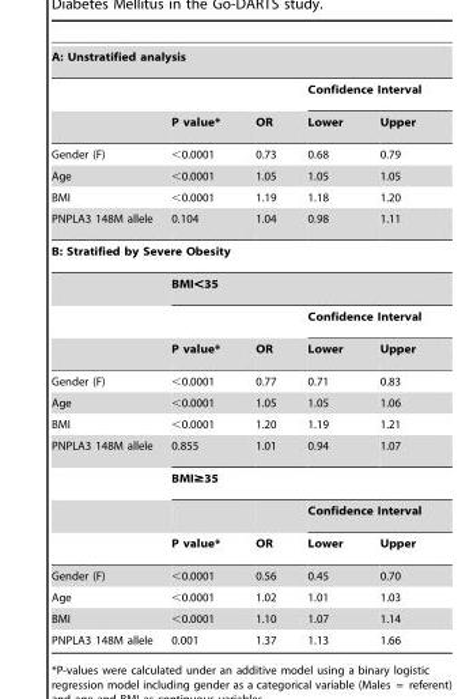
<table><tbody><tr><td colspan="5">A: Unstratified analysis</td></tr><tr><td></td><td colspan="2"></td><td colspan="2">Confidence Interval</td></tr><tr><td></td><td>P value*</td><td>OR</td><td>Lower</td><td>Upper</td></tr><tr><td>Gender (F)</td><td>&lt;0.0001</td><td>0.73</td><td>0.68</td><td>0.79</td></tr><tr><td>Age</td><td>&lt;0.0001</td><td>1.05</td><td>1.05</td><td>1.05</td></tr><tr><td>BMI</td><td>&lt;0.0001</td><td>1.19</td><td>1.18</td><td>1.20</td></tr><tr><td>PNPLA3 148M allele</td><td>0.104</td><td>1.04</td><td>0.98</td><td>1.11</td></tr><tr><td colspan="5">B: Stratified by Severe Obesity</td></tr><tr><td></td><td colspan="4">BMI&lt;35</td></tr><tr><td></td><td></td><td></td><td colspan="2">Confidence Interval</td></tr><tr><td></td><td>P value*</td><td>OR</td><td>Lower</td><td>Upper</td></tr><tr><td>Gender (F)</td><td>&lt;0.0001</td><td>0.77</td><td>0.71</td><td>0.83</td></tr><tr><td>Age</td><td>&lt;0.0001</td><td>1.05</td><td>1.05</td><td>1.06</td></tr><tr><td>BMI</td><td>&lt;0.0001</td><td>1.20</td><td>1.19</td><td>1.21</td></tr><tr><td rowspan="4">PNPLA3 148M allele</td><td>0.855</td><td>1.01</td><td>0.94</td><td>1.07</td></tr><tr><td colspan="4">BMI≥35</td></tr><tr><td></td><td></td><td colspan="2">Confidence Interval</td></tr><tr><td>P value*</td><td>OR</td><td>Lower</td><td>Upper</td></tr><tr><td>Gender (F)</td><td>&lt;0.0001</td><td>0.56</td><td>0.45</td><td>0.70</td></tr><tr><td>Age</td><td>&lt;0.0001</td><td>1.02</td><td>1.01</td><td>1.03</td></tr><tr><td>BMI</td><td>&lt;0.0001</td><td>1.10</td><td>1.07</td><td>1.14</td></tr><tr><td>PNPLA3 148M allele</td><td>0.001</td><td>1.37</td><td>1.13</td><td>1.66</td></tr></tbody></table>